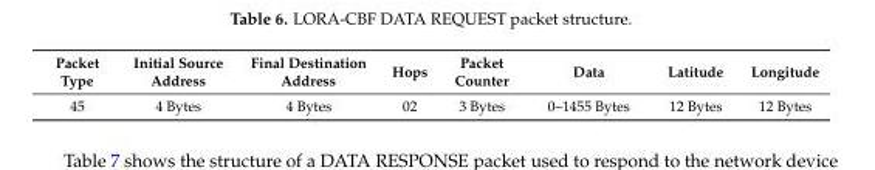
<table><thead><tr><td>Packet Type</td><td>Initial Source Address</td><td>Final Destination Address</td><td>Hops</td><td>Packet Counter</td><td>Data</td><td>Latitude</td><td>Longitude</td></tr></thead><tbody><tr><td>45</td><td>4 Bytes</td><td>4 Bytes</td><td>02</td><td>3 Bytes</td><td>0–1455 Bytes</td><td>12 Bytes</td><td>12 Bytes</td></tr></tbody></table>